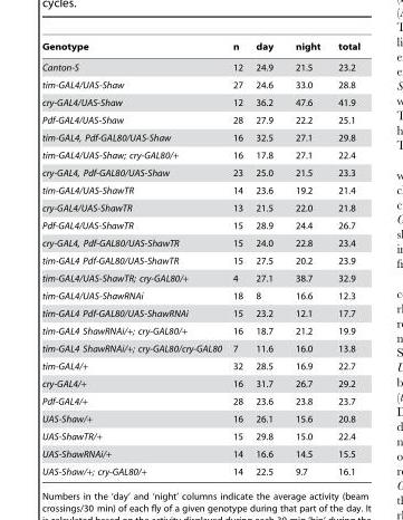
<table><thead><tr><td>Genotype</td><td>n</td><td>day</td><td>night</td><td>total</td></tr></thead><tbody><tr><td>Canton-S</td><td>12</td><td>24.9</td><td>21.5</td><td>23.2</td></tr><tr><td>tim-GAL4/UAS-Shaw</td><td>27</td><td>24.6</td><td>33.0</td><td>28.8</td></tr><tr><td>cry-GAL4/UAS-Shaw</td><td>12</td><td>36.2</td><td>47.6</td><td>41.9</td></tr><tr><td>Pdf-GAL4/UAS-Shaw</td><td>28</td><td>27.9</td><td>22.2</td><td>25.1</td></tr><tr><td>tim-GAL4, Pdf-GAL80/UAS-Shaw</td><td>16</td><td>32.5</td><td>27.1</td><td>29.8</td></tr><tr><td>tim-GAL4/UAS-Shaw; cry-GAL80/+</td><td>16</td><td>17.8</td><td>27.1</td><td>22.4</td></tr><tr><td>cry-GAL4, Pdf-GAL80/UAS-Shaw</td><td>23</td><td>25.0</td><td>21.5</td><td>23.3</td></tr><tr><td>tim-GAL4/UAS-ShawTR</td><td>14</td><td>23.6</td><td>19.2</td><td>21.4</td></tr><tr><td>cry-GAL4/UAS-ShawTR</td><td>13</td><td>21.5</td><td>22.0</td><td>21.8</td></tr><tr><td>Pdf-GAL4/UAS-ShawTR</td><td>15</td><td>28.9</td><td>24.4</td><td>26.7</td></tr><tr><td>cry-GAL4, Pdf-GAL80/UAS-ShawTR</td><td>15</td><td>24.0</td><td>22.8</td><td>23.4</td></tr><tr><td>tim-GAL4 Pdf-GAL80/UAS-ShawTR</td><td>15</td><td>27.5</td><td>20.2</td><td>23.9</td></tr><tr><td>tim-GAL4/UAS-ShawTR; cry-GAL80/+</td><td>4</td><td>27.1</td><td>38.7</td><td>32.9</td></tr><tr><td>tim-GAL4/UAS-ShawRNAi</td><td>18</td><td>8</td><td>16.6</td><td>12.3</td></tr><tr><td>tim-GAL4 Pdf-GAL80/UAS-ShawRNAi</td><td>15</td><td>23.2</td><td>12.1</td><td>17.7</td></tr><tr><td>tim-GAL4 ShawRNAi/+; cry-GAL80/+</td><td>16</td><td>18.7</td><td>21.2</td><td>19.9</td></tr><tr><td>tim-GAL4 ShawRNAi/+; cry-GAL80/cry-GAL80</td><td>7</td><td>11.6</td><td>16.0</td><td>13.8</td></tr><tr><td>tim-GAL4/+</td><td>32</td><td>28.5</td><td>16.9</td><td>22.7</td></tr><tr><td>cry-GAL4/+</td><td>16</td><td>31.7</td><td>26.7</td><td>29.2</td></tr><tr><td>Pdf-GAL4/+</td><td>28</td><td>23.6</td><td>23.8</td><td>23.7</td></tr><tr><td>UAS-Shaw/+</td><td>16</td><td>26.1</td><td>15.6</td><td>20.8</td></tr><tr><td>UAS-ShawTR/+</td><td>15</td><td>29.8</td><td>15.0</td><td>22.4</td></tr><tr><td>UAS-ShawRNAi/+</td><td>14</td><td>16.6</td><td>14.5</td><td>15.5</td></tr><tr><td>UAS-Shaw/+; cry-GAL80/+</td><td>14</td><td>22.5</td><td>9.7</td><td>16.1</td></tr></tbody></table>